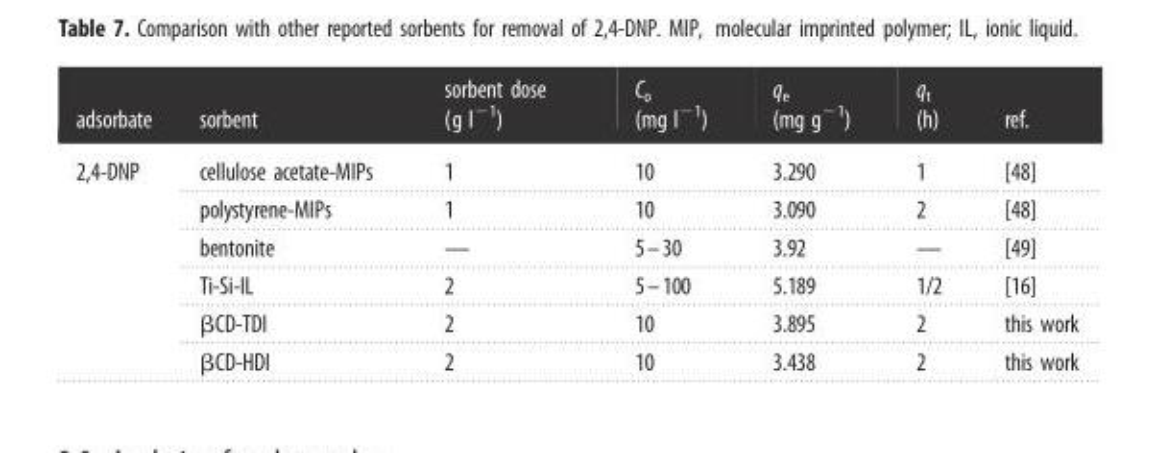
<table><thead><tr><td>adsorbate</td><td>sorbent</td><td>sorbent dose (g l<sup>−1</sup>)</td><td>C<sub>o</sub> (mg l<sup>−1</sup>)</td><td>q<sub>e</sub> (mg g<sup>−1</sup>)</td><td>q<sub>t</sub> (h)</td><td>ref.</td></tr></thead><tbody><tr><td rowspan="6">2,4-DNP</td><td>cellulose acetate-MIPs</td><td>1</td><td>10</td><td>3.290</td><td>1</td><td>[48]</td></tr><tr><td>polystyrene-MIPs</td><td>1</td><td>10</td><td>3.090</td><td>2</td><td>[48]</td></tr><tr><td>bentonite</td><td>—</td><td>5–30</td><td>3.92</td><td>—</td><td>[49]</td></tr><tr><td>Ti-Si-IL</td><td>2</td><td>5–100</td><td>5.189</td><td>1/2</td><td>[16]</td></tr><tr><td>βCD-TDI</td><td>2</td><td>10</td><td>3.895</td><td>2</td><td>this work</td></tr><tr><td>βCD-HDI</td><td>2</td><td>10</td><td>3.438</td><td>2</td><td>this work</td></tr></tbody></table>